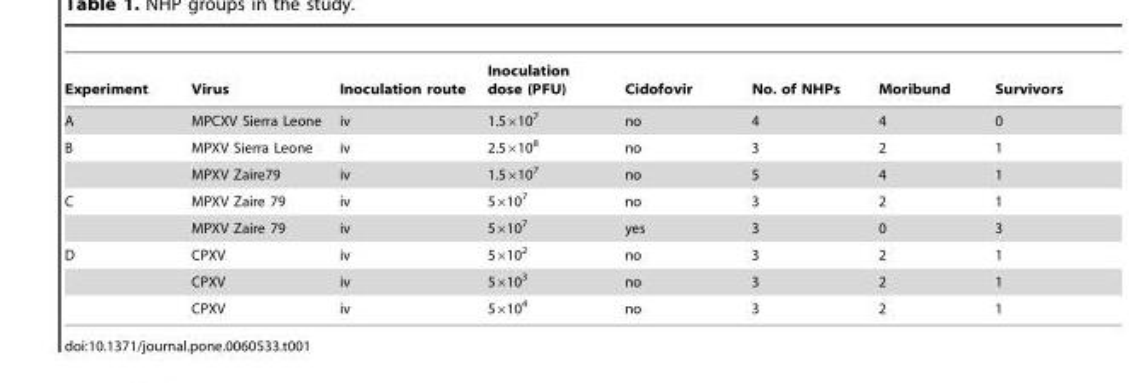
<table><thead><tr><td>Experiment</td><td>Virus</td><td>Inoculation route</td><td>Inoculation dose (PFU)</td><td>Cidofovir</td><td>No. of NHPs</td><td>Moribund</td><td>Survivors</td></tr></thead><tbody><tr><td>A</td><td>MPCXV Sierra Leone</td><td>iv</td><td>1.5×10<sup>7</sup></td><td>no</td><td>4</td><td>4</td><td>0</td></tr><tr><td rowspan="2">B</td><td>MPXV Sierra Leone</td><td>iv</td><td>2.5×10<sup>8</sup></td><td>no</td><td>3</td><td>2</td><td>1</td></tr><tr><td>MPXV Zaire79</td><td>iv</td><td>1.5×10<sup>7</sup></td><td>no</td><td>5</td><td>4</td><td>1</td></tr><tr><td rowspan="2">C</td><td>MPXV Zaire 79</td><td>iv</td><td>5×10<sup>7</sup></td><td>no</td><td>3</td><td>2</td><td>1</td></tr><tr><td>MPXV Zaire 79</td><td>iv</td><td>5×10<sup>7</sup></td><td>yes</td><td>3</td><td>0</td><td>3</td></tr><tr><td rowspan="3">D</td><td>CPXV</td><td>iv</td><td>5×10<sup>2</sup></td><td>no</td><td>3</td><td>2</td><td>1</td></tr><tr><td>CPXV</td><td>iv</td><td>5×10<sup>3</sup></td><td>no</td><td>3</td><td>2</td><td>1</td></tr><tr><td>CPXV</td><td>iv</td><td>5×10<sup>4</sup></td><td>no</td><td>3</td><td>2</td><td>1</td></tr></tbody></table>